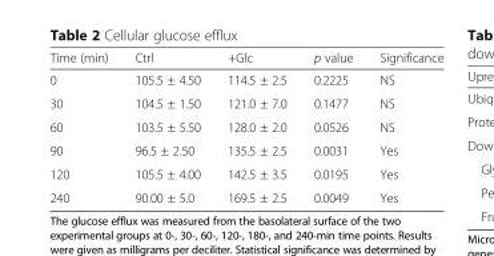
<table><thead><tr><td>Time (min)</td><td>Ctrl</td><td>+Glc</td><td>p value</td><td>Significance</td></tr></thead><tbody><tr><td>0</td><td>105.5 ± 4.50</td><td>114.5 ± 2.5</td><td>0.2225</td><td>NS</td></tr><tr><td>30</td><td>104.5 ± 1.50</td><td>121.0 ± 7.0</td><td>0.1477</td><td>NS</td></tr><tr><td>60</td><td>103.5 ± 5.50</td><td>128.0 ± 2.0</td><td>0.0526</td><td>NS</td></tr><tr><td>90</td><td>96.5 ± 2.50</td><td>135.5 ± 2.5</td><td>0.0031</td><td>Yes</td></tr><tr><td>120</td><td>105.5 ± 4.00</td><td>142.5 ± 3.5</td><td>0.0195</td><td>Yes</td></tr><tr><td>240</td><td>90.00 ± 5.0</td><td>169.5 ± 2.5</td><td>0.0049</td><td>Yes</td></tr></tbody></table>